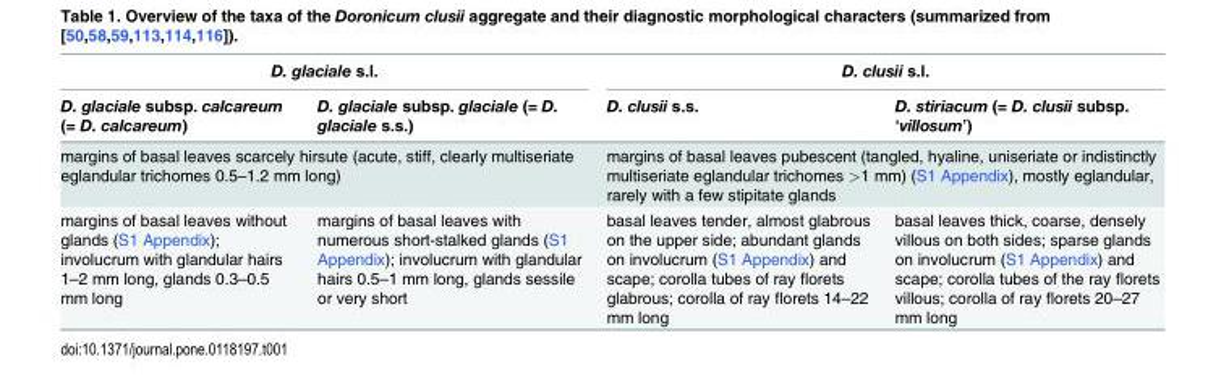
<table><thead><tr><td colspan="2">D. glaciale s.l.</td><td colspan="2">D. clusii s.l.</td></tr><tr><td>D. glaciale subsp. calcareum (= D. calcareum)</td><td>D. glaciale subsp. glaciale (= D. glaciale s.s.)</td><td>D. clusii s.s.</td><td>D. stiriacum (= D. clusii subsp. ‘villosum’)</td></tr></thead><tbody><tr><td colspan="2">margins of basal leaves scarcely hirsute (acute, stiff, clearly multiseriate eglandular trichomes 0.5–1.2 mm long)</td><td colspan="2">margins of basal leaves pubescent (tangled, hyaline, uniseriate or indistinctly multiseriate eglandular trichomes &gt;1 mm) (S1 Appendix), mostly eglandular, rarely with a few stipitate glands</td></tr><tr><td>margins of basal leaves without glands (S1 Appendix); involucrum with glandular hairs 1–2 mm long, glands 0.3–0.5 mm long</td><td>margins of basal leaves with numerous short-stalked glands (S1 Appendix); involucrum with glandular hairs 0.5–1 mm long, glands sessile or very short</td><td>basal leaves tender, almost glabrous on the upper side; abundant glands on involucrum (S1 Appendix) and scape; corolla tubes of ray florets glabrous; corolla of ray florets 14–22 mm long</td><td>basal leaves thick, coarse, densely villous on both sides; sparse glands on involucrum (S1 Appendix) and scape; corolla tubes of the ray florets villous; corolla of ray florets 20–27 mm long</td></tr></tbody></table>